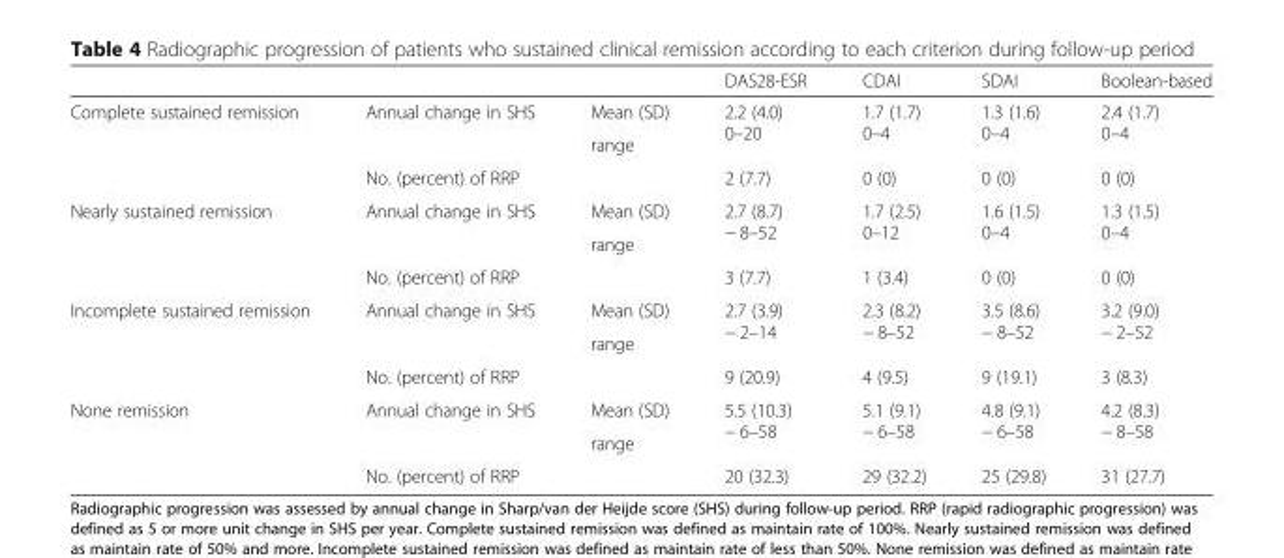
<table><thead><tr><td></td><td></td><td></td><td>DAS28-ESR</td><td>CDAI</td><td>SDAI</td><td>Boolean-based</td></tr></thead><tbody><tr><td rowspan="3">Complete sustained remission</td><td rowspan="2">Annual change in SHS</td><td>Mean (SD)</td><td rowspan="2">2.2 (4.0) 0–20</td><td rowspan="2">1.7 (1.7) 0–4</td><td rowspan="2">1.3 (1.6) 0–4</td><td rowspan="2">2.4 (1.7) 0–4</td></tr><tr><td>range</td></tr><tr><td colspan="2">No. (percent) of RRP</td><td>2 (7.7)</td><td>0 (0)</td><td>0 (0)</td><td>0 (0)</td></tr><tr><td rowspan="3">Nearly sustained remission</td><td rowspan="2">Annual change in SHS</td><td>Mean (SD)</td><td rowspan="2">2.7 (8.7) − 8–52</td><td rowspan="2">1.7 (2.5) 0–12</td><td rowspan="2">1.6 (1.5) 0–4</td><td rowspan="2">1.3 (1.5) 0–4</td></tr><tr><td>range</td></tr><tr><td colspan="2">No. (percent) of RRP</td><td>3 (7.7)</td><td>1 (3.4)</td><td>0 (0)</td><td>0 (0)</td></tr><tr><td rowspan="3">Incomplete sustained remission</td><td rowspan="2">Annual change in SHS</td><td>Mean (SD)</td><td rowspan="2">2.7 (3.9) − 2–14</td><td rowspan="2">2.3 (8.2) − 8–52</td><td rowspan="2">3.5 (8.6) − 8–52</td><td rowspan="2">3.2 (9.0) − 2–52</td></tr><tr><td>range</td></tr><tr><td colspan="2">No. (percent) of RRP</td><td>9 (20.9)</td><td>4 (9.5)</td><td>9 (19.1)</td><td>3 (8.3)</td></tr><tr><td rowspan="3">None remission</td><td rowspan="2">Annual change in SHS</td><td>Mean (SD)</td><td rowspan="2">5.5 (10.3) − 6–58</td><td rowspan="2">5.1 (9.1) − 6–58</td><td rowspan="2">4.8 (9.1) − 6–58</td><td rowspan="2">4.2 (8.3) − 8–58</td></tr><tr><td>range</td></tr><tr><td colspan="2">No. (percent) of RRP</td><td>20 (32.3)</td><td>29 (32.2)</td><td>25 (29.8)</td><td>31 (27.7)</td></tr></tbody></table>